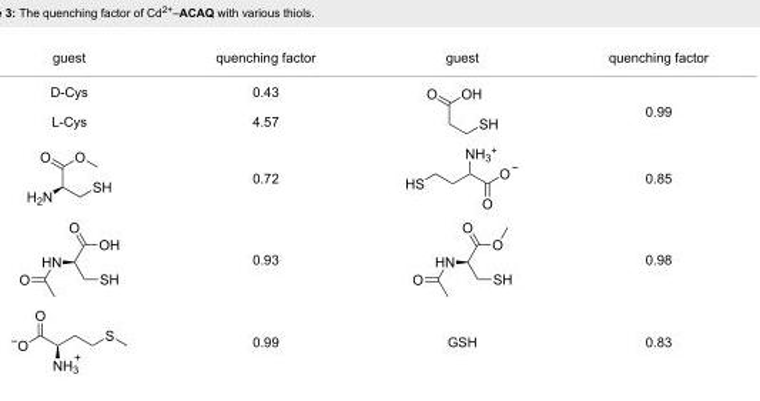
<table><tbody><tr><td>guest</td><td>quenching factor</td><td>guest</td><td>quenching factor</td></tr><tr><td>D-Cys</td><td>0.43</td><td rowspan="2"></td><td rowspan="2">0.99</td></tr><tr><td rowspan="4">L-Cys</td><td>4.57</td></tr><tr><td>0.72</td><td></td><td>0.85</td></tr><tr><td>0.93</td><td></td><td>0.98</td></tr><tr><td>0.99</td><td>GSH</td><td>0.83</td></tr></tbody></table>